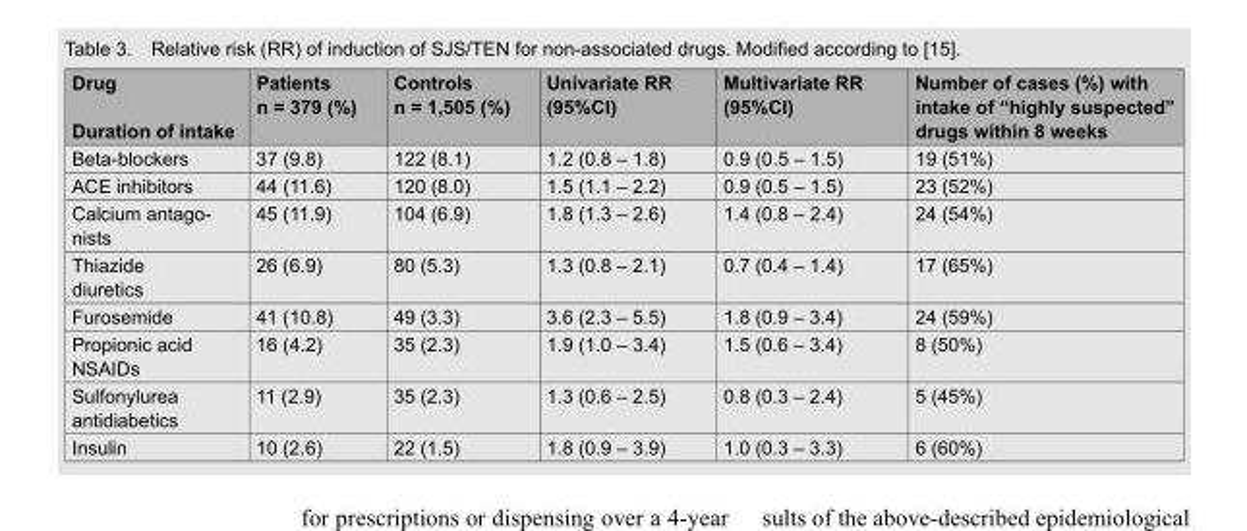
<table><thead><tr><td>Drug Duration of intake</td><td>Patients n = 379 (%)</td><td>Controls n = 1,505 (%)</td><td>Univariate RR (95%CI)</td><td>Multivariate RR (95%CI)</td><td>Number of cases (%) with intake of “highly suspected” drugs within 8 weeks</td></tr></thead><tbody><tr><td>Beta-blockers</td><td>37 (9.8)</td><td>122 (8.1)</td><td>1.2 (0.8 – 1.8)</td><td>0.9 (0.5 – 1.5)</td><td>19 (51%)</td></tr><tr><td>ACE inhibitors</td><td>44 (11.6)</td><td>120 (8.0)</td><td>1.5 (1.1 – 2.2)</td><td>0.9 (0.5 – 1.5)</td><td>23 (52%)</td></tr><tr><td>Calcium antago- nists</td><td>45 (11.9)</td><td>104 (6.9)</td><td>1.8 (1.3 – 2.6)</td><td>1.4 (0.8 – 2.4)</td><td>24 (54%)</td></tr><tr><td>Thiazide diuretics</td><td>26 (6.9)</td><td>80 (5.3)</td><td>1.3 (0.8 – 2.1)</td><td>0.7 (0.4 – 1.4)</td><td>17 (65%)</td></tr><tr><td>Furosemide</td><td>41 (10.8)</td><td>49 (3.3)</td><td>3.6 (2.3 – 5.5)</td><td>1.8 (0.9 – 3.4)</td><td>24 (59%)</td></tr><tr><td>Propionic acid NSAIDs</td><td>16 (4.2)</td><td>35 (2.3)</td><td>1.9 (1.0 – 3.4)</td><td>1.5 (0.6 – 3.4)</td><td>8 (50%)</td></tr><tr><td>Sulfonylurea antidiabetics</td><td>11 (2.9)</td><td>35 (2.3)</td><td>1.3 (0.6 – 2.5)</td><td>0.8 (0.3 – 2.4)</td><td>5 (45%)</td></tr><tr><td>Insulin</td><td>10 (2.6)</td><td>22 (1.5)</td><td>1.8 (0.9 – 3.9)</td><td>1.0 (0.3 – 3.3)</td><td>6 (60%)</td></tr></tbody></table>